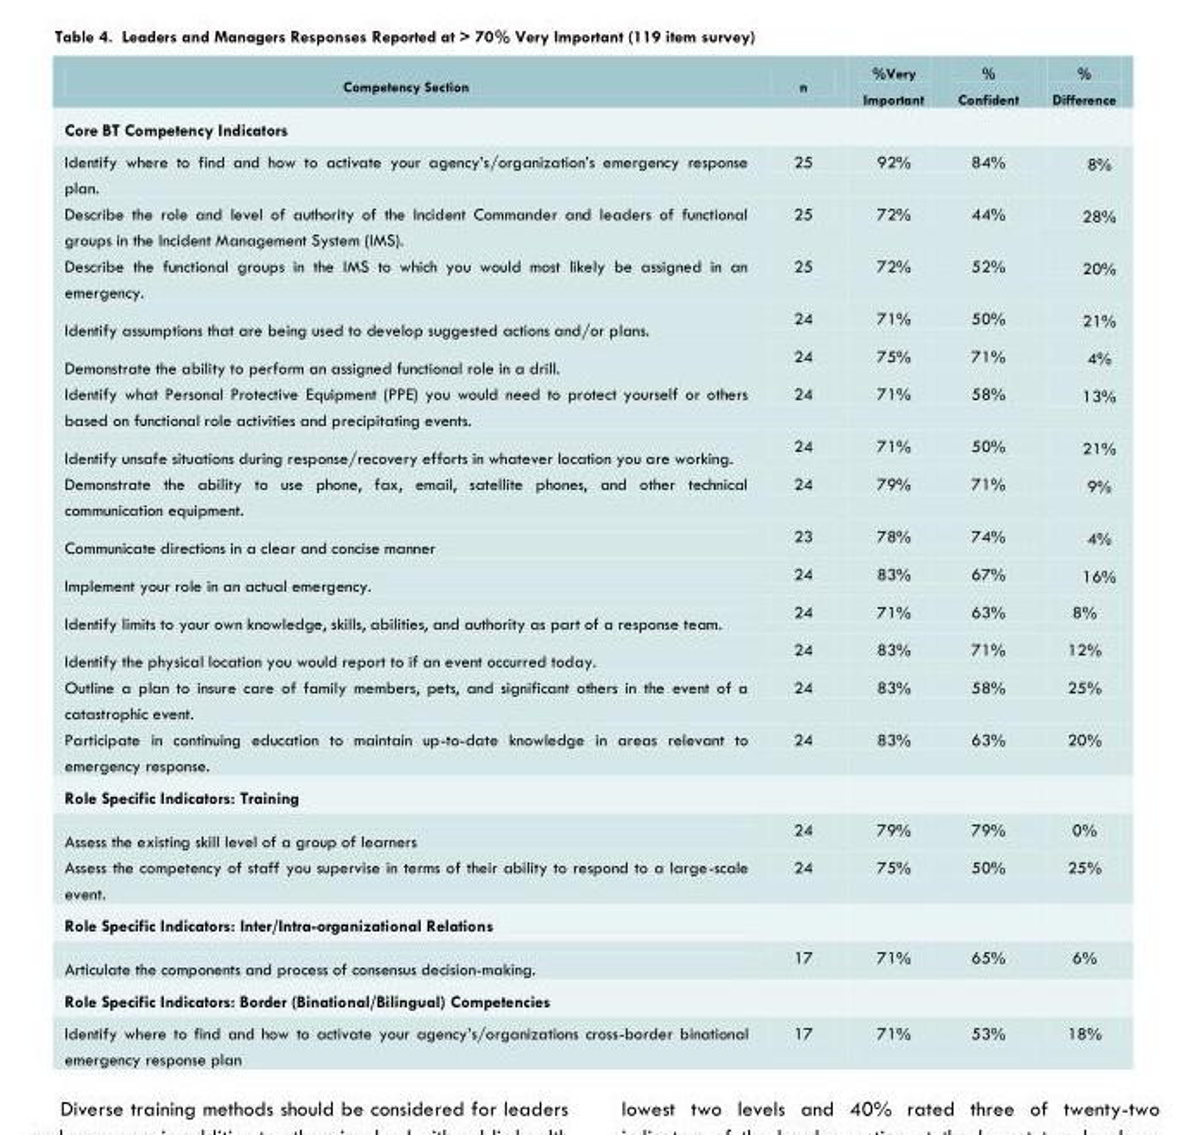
<table><thead><tr><td>Competency Section</td><td>n</td><td>%Very Important</td><td>% Confident</td><td>% Difference</td></tr></thead><tbody><tr><td colspan="5">Core BT Competency Indicators</td></tr><tr><td>Identify where to find and how to activate your agency’s/organization’s emergency response plan.</td><td>25</td><td>92%</td><td>84%</td><td>8%</td></tr><tr><td>Describe the role and level of authority of the Incident Commander and leaders of functional groups in the Incident Management System (IMS).</td><td>25</td><td>72%</td><td>44%</td><td>28%</td></tr><tr><td>Describe the functional groups in the IMS to which you would most likely be assigned in an emergency.</td><td>25</td><td>72%</td><td>52%</td><td>20%</td></tr><tr><td>Identify assumptions that are being used to develop suggested actions and/or plans.</td><td>24</td><td>71%</td><td>50%</td><td>21%</td></tr><tr><td>Demonstrate the ability to perform an assigned functional role in a drill.</td><td>24</td><td>75%</td><td>71%</td><td>4%</td></tr><tr><td>Identify what Personal Protective Equipment (PPE) you would need to protect yourself or others based on functional role activities and precipitating events.</td><td>24</td><td>71%</td><td>58%</td><td>13%</td></tr><tr><td>Identify unsafe situations during response/recovery efforts in whatever location you are working.</td><td>24</td><td>71%</td><td>50%</td><td>21%</td></tr><tr><td>Demonstrate the ability to use phone, fax, email, satellite phones, and other technical communication equipment.</td><td>24</td><td>79%</td><td>71%</td><td>9%</td></tr><tr><td>Communicate directions in a clear and concise manner</td><td>23</td><td>78%</td><td>74%</td><td>4%</td></tr><tr><td>Implement your role in an actual emergency.</td><td>24</td><td>83%</td><td>67%</td><td>16%</td></tr><tr><td>Identify limits to your own knowledge, skills, abilities, and authority as part of a response team.</td><td>24</td><td>71%</td><td>63%</td><td>8%</td></tr><tr><td>Identify the physical location you would report to if an event occurred today.</td><td>24</td><td>83%</td><td>71%</td><td>12%</td></tr><tr><td>Outline a plan to insure care of family members, pets, and significant others in the event of a catastrophic event.</td><td>24</td><td>83%</td><td>58%</td><td>25%</td></tr><tr><td>Participate in continuing education to maintain up-to-date knowledge in areas relevant to emergency response.</td><td>24</td><td>83%</td><td>63%</td><td>20%</td></tr><tr><td colspan="5">Role Specific Indicators: Training</td></tr><tr><td>Assess the existing skill level of a group of learners</td><td>24</td><td>79%</td><td>79%</td><td>0%</td></tr><tr><td>Assess the competency of staff you supervise in terms of their ability to respond to a large-scale event.</td><td>24</td><td>75%</td><td>50%</td><td>25%</td></tr><tr><td colspan="5">Role Specific Indicators: Inter/Intra-organizational Relations</td></tr><tr><td>Articulate the components and process of consensus decision-making.</td><td>17</td><td>71%</td><td>65%</td><td>6%</td></tr><tr><td colspan="5">Role Specific Indicators: Border (Binational/Bilingual) Competencies</td></tr><tr><td>Identify where to find and how to activate your agency’s/organizations cross-border binational emergency response plan</td><td>17</td><td>71%</td><td>53%</td><td>18%</td></tr></tbody></table>